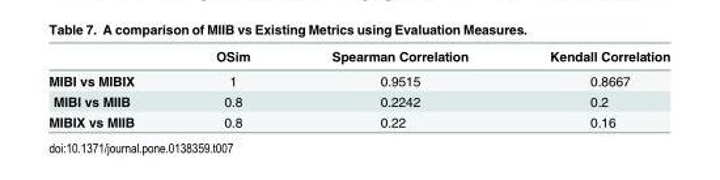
<table><thead><tr><td></td><td>OSim</td><td>Spearman Correlation</td><td>Kendall Correlation</td></tr></thead><tbody><tr><td>MIBI vs MIBIX</td><td>1</td><td>0.9515</td><td>0.8667</td></tr><tr><td>MIBI vs MIIB</td><td>0.8</td><td>0.2242</td><td>0.2</td></tr><tr><td>MIBIX vs MIIB</td><td>0.8</td><td>0.22</td><td>0.16</td></tr></tbody></table>